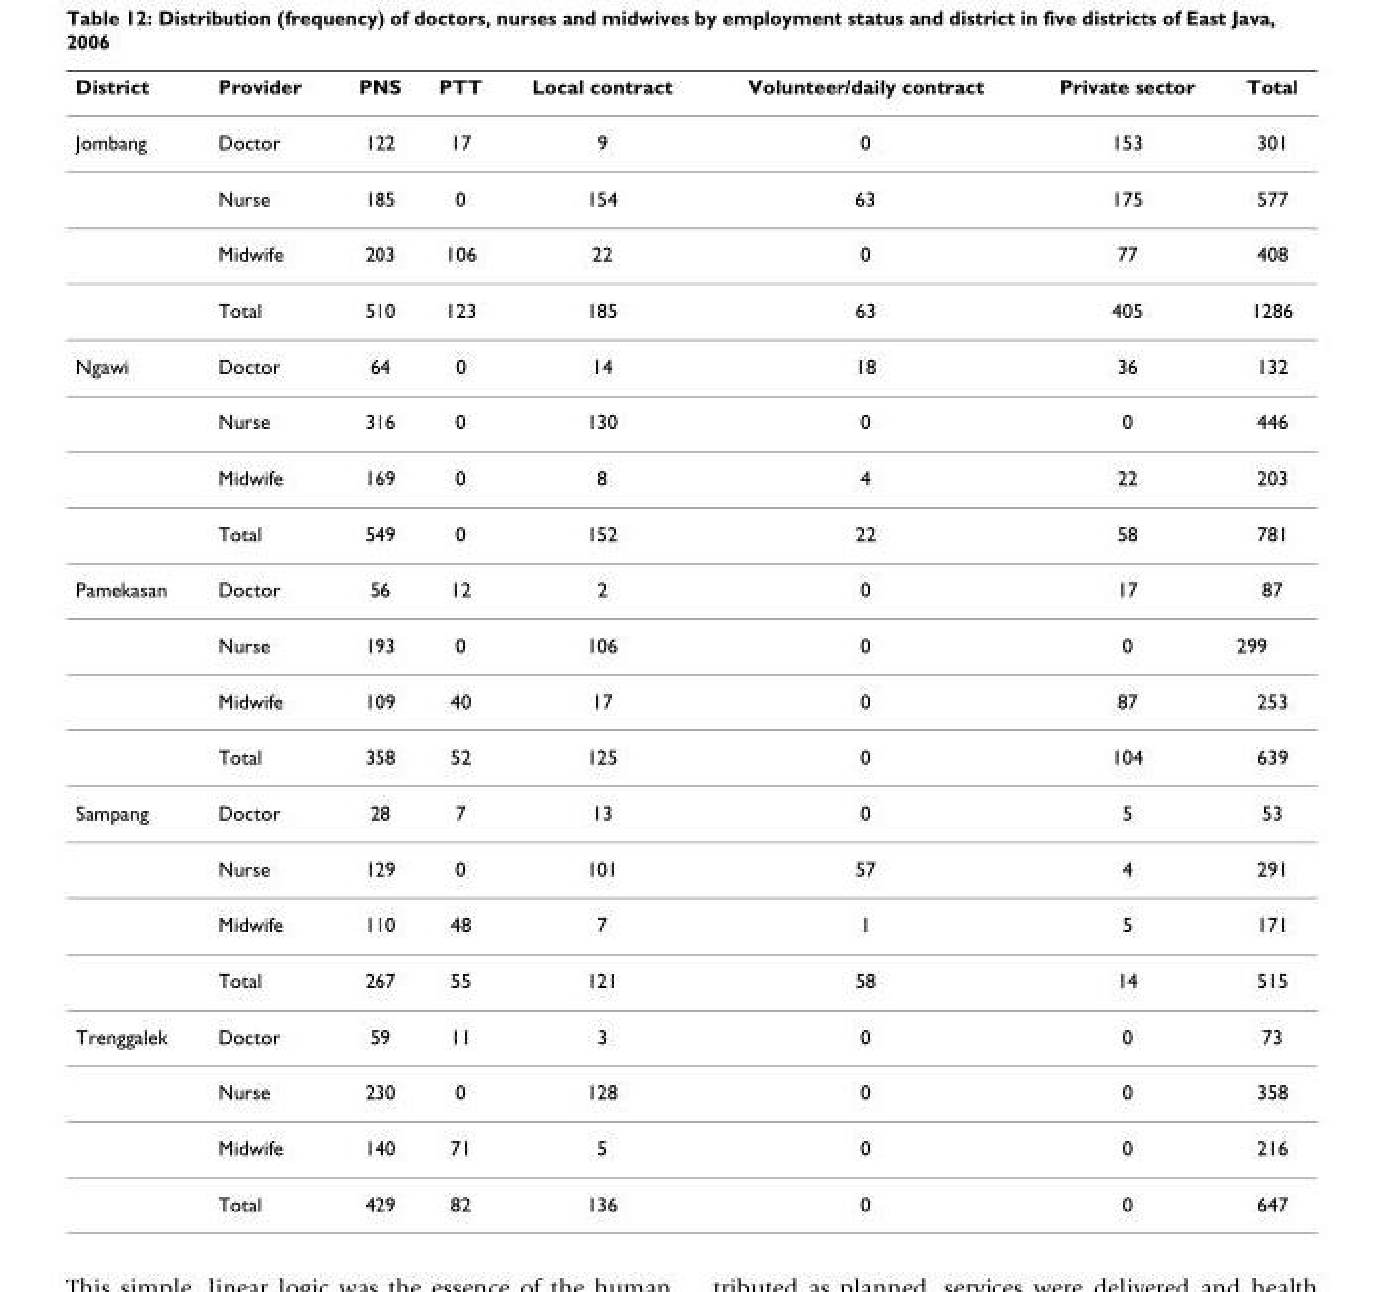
<table><thead><tr><td>District</td><td>Provider</td><td>PNS</td><td>PTT</td><td>Local contract</td><td>Volunteer/daily contract</td><td>Private sector</td><td>Total</td></tr></thead><tbody><tr><td rowspan="4">Jombang</td><td>Doctor</td><td>122</td><td>17</td><td>9</td><td>0</td><td>153</td><td>301</td></tr><tr><td>Nurse</td><td>185</td><td>0</td><td>154</td><td>63</td><td>175</td><td>577</td></tr><tr><td>Midwife</td><td>203</td><td>106</td><td>22</td><td>0</td><td>77</td><td>408</td></tr><tr><td>Total</td><td>510</td><td>123</td><td>185</td><td>63</td><td>405</td><td>1286</td></tr><tr><td rowspan="4">Ngawi</td><td>Doctor</td><td>64</td><td>0</td><td>14</td><td>18</td><td>36</td><td>132</td></tr><tr><td>Nurse</td><td>316</td><td>0</td><td>130</td><td>0</td><td>0</td><td>446</td></tr><tr><td>Midwife</td><td>169</td><td>0</td><td>8</td><td>4</td><td>22</td><td>203</td></tr><tr><td>Total</td><td>549</td><td>0</td><td>152</td><td>22</td><td>58</td><td>781</td></tr><tr><td rowspan="4">Pamekasan</td><td>Doctor</td><td>56</td><td>12</td><td>2</td><td>0</td><td>17</td><td>87</td></tr><tr><td>Nurse</td><td>193</td><td>0</td><td>106</td><td>0</td><td>0</td><td>299</td></tr><tr><td>Midwife</td><td>109</td><td>40</td><td>17</td><td>0</td><td>87</td><td>253</td></tr><tr><td>Total</td><td>358</td><td>52</td><td>125</td><td>0</td><td>104</td><td>639</td></tr><tr><td rowspan="4">Sampang</td><td>Doctor</td><td>28</td><td>7</td><td>13</td><td>0</td><td>5</td><td>53</td></tr><tr><td>Nurse</td><td>129</td><td>0</td><td>101</td><td>57</td><td>4</td><td>291</td></tr><tr><td>Midwife</td><td>110</td><td>48</td><td>7</td><td>1</td><td>5</td><td>171</td></tr><tr><td>Total</td><td>267</td><td>55</td><td>121</td><td>58</td><td>14</td><td>515</td></tr><tr><td rowspan="4">Trenggalek</td><td>Doctor</td><td>59</td><td>11</td><td>3</td><td>0</td><td>0</td><td>73</td></tr><tr><td>Nurse</td><td>230</td><td>0</td><td>128</td><td>0</td><td>0</td><td>358</td></tr><tr><td>Midwife</td><td>140</td><td>71</td><td>5</td><td>0</td><td>0</td><td>216</td></tr><tr><td>Total</td><td>429</td><td>82</td><td>136</td><td>0</td><td>0</td><td>647</td></tr></tbody></table>